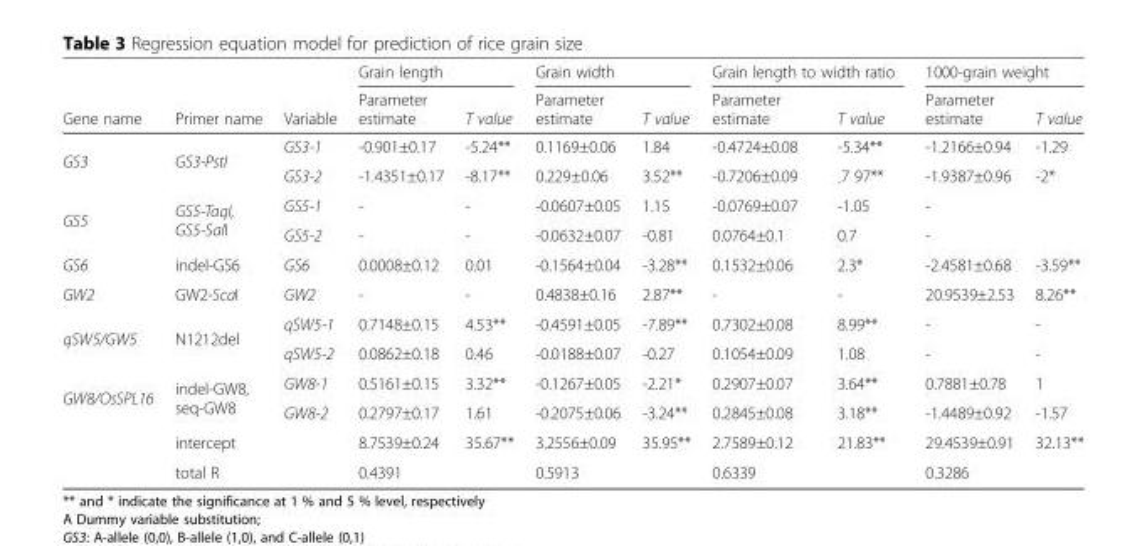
<table><thead><tr><td rowspan="2">Gene name</td><td rowspan="2">Primer name</td><td rowspan="2">Variable</td><td colspan="2">Grain length</td><td colspan="2">Grain width</td><td colspan="2">Grain length to width ratio</td><td colspan="2">1000-grain weight</td></tr><tr><td>Parameter estimate</td><td>T value</td><td>Parameter estimate</td><td>T value</td><td>Parameter estimate</td><td>T value</td><td>Parameter estimate</td><td>T value</td></tr></thead><tbody><tr><td rowspan="2">GS3</td><td rowspan="2">GS3-PstI</td><td>GS3-1</td><td>-0.901±0.17</td><td>-5.24**</td><td>0.1169±0.06</td><td>1.84</td><td>-0.4724±0.08</td><td>-5.34**</td><td>-1.2166±0.94</td><td>-1.29</td></tr><tr><td>GS3-2</td><td>-1.4351±0.17</td><td>-8.17**</td><td>0.229±0.06</td><td>3.52**</td><td>-0.7206±0.09</td><td><sub>-</sub>7 97**</td><td>-1.9387±0.96</td><td>-2*</td></tr><tr><td rowspan="2">GS5</td><td rowspan="2">GS5-TaqI, GS5-SalI</td><td>GS5-1</td><td>-</td><td>-</td><td>-0.0607±0.05</td><td>1.15</td><td>-0.0769±0.07</td><td>-1.05</td><td>-</td><td></td></tr><tr><td>GS5-2</td><td>-</td><td>-</td><td>-0.0632±0.07</td><td>-0.81</td><td>0.0764±0.1</td><td>0.7</td><td>-</td><td></td></tr><tr><td>GS6</td><td>indel-GS6</td><td>GS6</td><td>0.0008±0.12</td><td>0.01</td><td>-0.1564±0.04</td><td>-3.28**</td><td>0.1532±0.06</td><td>2.3*</td><td>-2.4581±0.68</td><td>-3.59**</td></tr><tr><td>GW2</td><td>GW2-ScaI</td><td>GW2</td><td>-</td><td>-</td><td>0.4838±0.16</td><td>2.87**</td><td>-</td><td>-</td><td>20.9539±2.53</td><td>8.26**</td></tr><tr><td rowspan="2">qSW5/GW5</td><td rowspan="2">N1212del</td><td>qSW5-1</td><td>0.7148±0.15</td><td>4.53**</td><td>-0.4591±0.05</td><td>-7.89**</td><td>0.7302±0.08</td><td>8.99**</td><td>-</td><td>-</td></tr><tr><td>qSW5-2</td><td>0.0862±0.18</td><td>0.46</td><td>-0.0188±0.07</td><td>-0.27</td><td>0.1054±0.09</td><td>1.08</td><td>-</td><td>-</td></tr><tr><td rowspan="4">GW8/OsSPL16</td><td rowspan="2">indel-GW8, seq-GW8</td><td>GW8-1</td><td>0.5161±0.15</td><td>3.32**</td><td>-0.1267±0.05</td><td>-2.21*</td><td>0.2907±0.07</td><td>3.64**</td><td>0.7881±0.78</td><td>1</td></tr><tr><td>GW8-2</td><td>0.2797±0.17</td><td>1.61</td><td>-0.2075±0.06</td><td>-3.24**</td><td>0.2845±0.08</td><td>3.18**</td><td>-1.4489±0.92</td><td>-1.57</td></tr><tr><td>intercept</td><td></td><td>8.7539±0.24</td><td>35.67**</td><td>3.2556±0.09</td><td>35.95**</td><td>2.7589±0.12</td><td>21.83**</td><td>29.4539±0.91</td><td>32.13**</td></tr><tr><td>total R</td><td></td><td colspan="2">0.4391</td><td colspan="2">0.5913</td><td colspan="2">0.6339</td><td colspan="2">0.3286</td></tr></tbody></table>